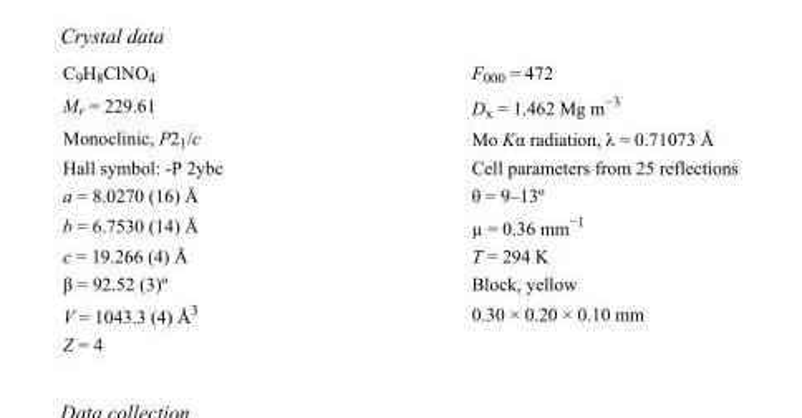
<table><tbody><tr><td>C<sub>9</sub>H<sub>8</sub>ClNO<sub>4</sub></td><td>F000 = 472</td></tr><tr><td>M<sub>r</sub> = 229.61</td><td>D<sub>x</sub> = 1.462 Mg m<sup>−3</sup></td></tr><tr><td>Monoclinic, P2<sub>1</sub>/c</td><td>Mo Kα radiation, λ = 0.71073 Å</td></tr><tr><td>Hall symbol: -P 2ybc</td><td>Cell parameters from 25 reflections</td></tr><tr><td>a = 8.0270 (16) Å</td><td>θ = 9–13º</td></tr><tr><td>b = 6.7530 (14) Å</td><td>µ = 0.36 mm<sup>−1</sup></td></tr><tr><td>c = 19.266 (4) Å</td><td>T = 294 K</td></tr><tr><td>β = 92.52 (3)º</td><td>Block, yellow</td></tr><tr><td>V = 1043.3 (4) Å<sup>3</sup></td><td>0.30 × 0.20 × 0.10 mm</td></tr><tr><td>Z = 4</td><td></td></tr></tbody></table>